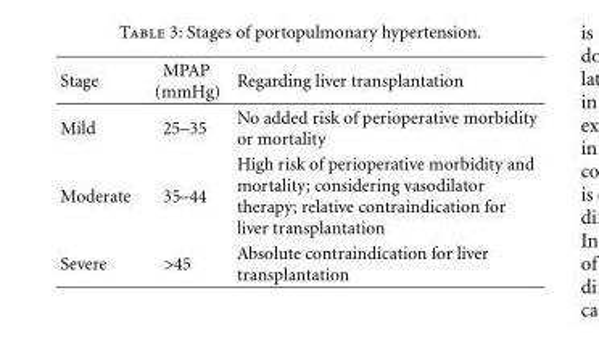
<table><thead><tr><td>Stage</td><td>MPAP (mmHg)</td><td>Regarding liver transplantation</td></tr></thead><tbody><tr><td>Mild</td><td>25–35</td><td>No added risk of perioperative morbidity or mortality</td></tr><tr><td>Moderate</td><td>35–44</td><td>High risk of perioperative morbidity and mortality; considering vasodilator therapy; relative contraindication for liver transplantation</td></tr><tr><td>Severe</td><td>&gt;45</td><td>Absolute contraindication for liver transplantation</td></tr></tbody></table>